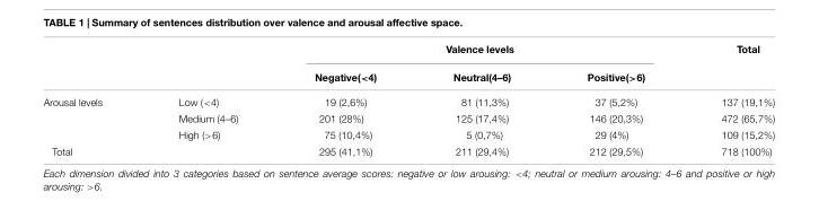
<table><thead><tr><td rowspan="2"></td><td rowspan="2"></td><td colspan="3">Valence levels</td><td rowspan="2">Total</td></tr><tr><td>Negative(&lt;4)</td><td>Neutral(4–6)</td><td>Positive(&gt;6)</td></tr></thead><tbody><tr><td rowspan="3">Arousal levels</td><td>Low (&lt;4)</td><td>19 (2,6%)</td><td>81 (11,3%)</td><td>37 (5,2%)</td><td>137 (19,1%)</td></tr><tr><td>Medium (4–6)</td><td>201 (28%)</td><td>125 (17,4%)</td><td>146 (20,3%)</td><td>472 (65,7%)</td></tr><tr><td>High (&gt;6)</td><td>75 (10,4%)</td><td>5 (0,7%)</td><td>29 (4%)</td><td>109 (15,2%)</td></tr><tr><td colspan="2">Total</td><td>295 (41,1%)</td><td>211 (29,4%)</td><td>212 (29,5%)</td><td>718 (100%)</td></tr></tbody></table>